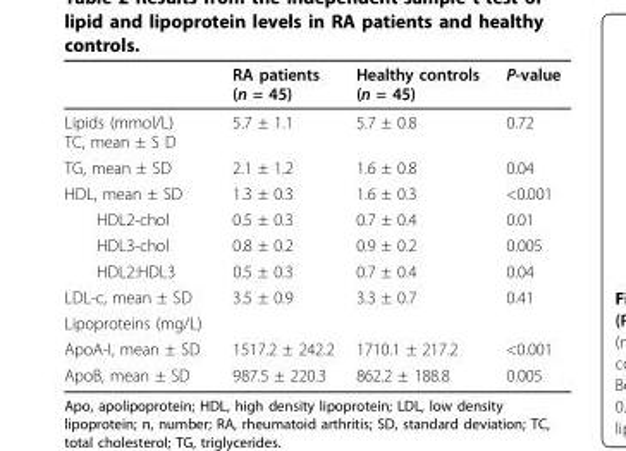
<table><thead><tr><td></td><td>RA patients (n = 45)</td><td>Healthy controls (n = 45)</td><td>P-value</td></tr></thead><tbody><tr><td>Lipids (mmol/L) TC, mean ± S D</td><td>5.7 ± 1.1</td><td>5.7 ± 0.8</td><td>0.72</td></tr><tr><td>TG, mean ± SD</td><td>2.1 ± 1.2</td><td>1.6 ± 0.8</td><td>0.04</td></tr><tr><td>HDL, mean ± SD</td><td>1.3 ± 0.3</td><td>1.6 ± 0.3</td><td>&lt;0.001</td></tr><tr><td>HDL2-chol</td><td>0.5 ± 0.3</td><td>0.7 ± 0.4</td><td>0.01</td></tr><tr><td>HDL3-chol</td><td>0.8 ± 0.2</td><td>0.9 ± 0.2</td><td>0.005</td></tr><tr><td>HDL2:HDL3</td><td>0.5 ± 0.3</td><td>0.7 ± 0.4</td><td>0.04</td></tr><tr><td>LDL-c, mean ± SD</td><td>3.5 ± 0.9</td><td>3.3 ± 0.7</td><td>0.41</td></tr><tr><td colspan="4">Lipoproteins (mg/L)</td></tr><tr><td>ApoA-I, mean ± SD</td><td>1517.2 ± 242.2</td><td>1710.1 ± 217.2</td><td>&lt;0.001</td></tr><tr><td>ApoB, mean ± SD</td><td>987.5 ± 220.3</td><td>862.2 ± 188.8</td><td>0.005</td></tr></tbody></table>